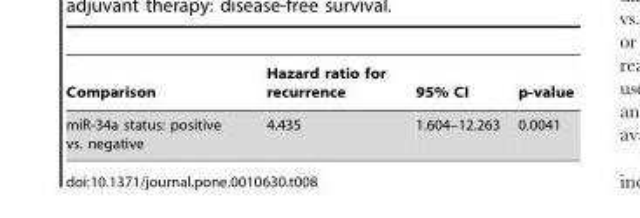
<table><thead><tr><td>Comparison</td><td>Hazard ratio for recurrence</td><td>95% CI</td><td>p-value</td></tr></thead><tbody><tr><td>miR-34a status: positive vs. negative</td><td>4.435</td><td>1.604–12.263</td><td>0.0041</td></tr></tbody></table>